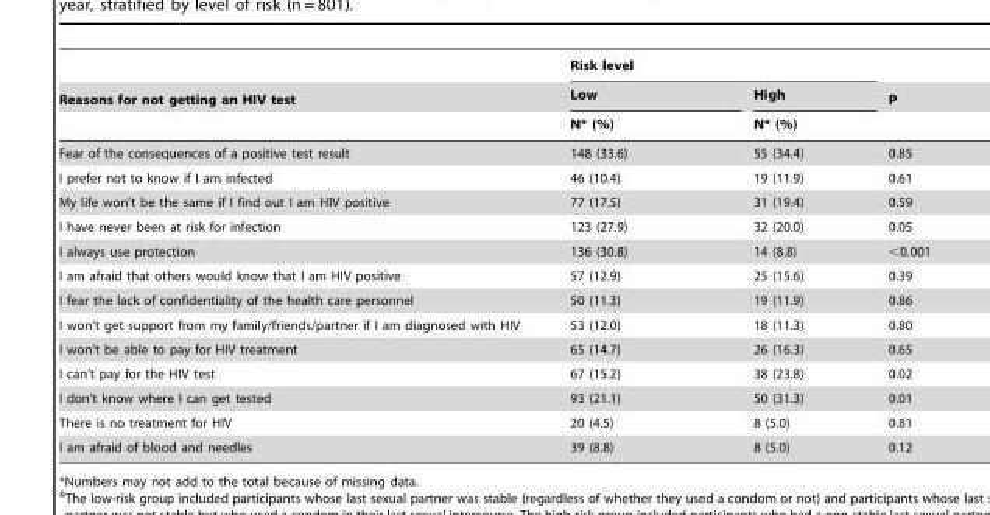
<table><thead><tr><td rowspan="3">Reasons for not getting an HIV test</td><td colspan="2">Risk level</td><td rowspan="3">P</td></tr><tr><td rowspan="2">Low N* (%)</td><td rowspan="2">High N* (%)</td></tr><tr></tr></thead><tbody><tr><td>Fear of the consequences of a positive test result</td><td>148 (33.6)</td><td>55 (34.4)</td><td>0.85</td></tr><tr><td>I prefer not to know if I am infected</td><td>46 (10.4)</td><td>19 (11.9)</td><td>0.61</td></tr><tr><td>My life won’t be the same if I find out I am HIV positive</td><td>77 (17.5)</td><td>31 (19.4)</td><td>0.59</td></tr><tr><td>I have never been at risk for infection</td><td>123 (27.9)</td><td>32 (20.0)</td><td>0.05</td></tr><tr><td>I always use protection</td><td>136 (30.8)</td><td>14 (8.8)</td><td>&lt;0.001</td></tr><tr><td>I am afraid that others would know that I am HIV positive</td><td>57 (12.9)</td><td>25 (15.6)</td><td>0.39</td></tr><tr><td>I fear the lack of confidentiality of the health care personnel</td><td>50 (11.3)</td><td>19 (11.9)</td><td>0.86</td></tr><tr><td>I won’t get support from my family/friends/partner if I am diagnosed with HIV</td><td>53 (12.0)</td><td>18 (11.3)</td><td>0.80</td></tr><tr><td>I won’t be able to pay for HIV treatment</td><td>65 (14.7)</td><td>26 (16.3)</td><td>0.65</td></tr><tr><td>I can’t pay for the HIV test</td><td>67 (15.2)</td><td>38 (23.8)</td><td>0.02</td></tr><tr><td>I don’t know where I can get tested</td><td>93 (21.1)</td><td>50 (31.3)</td><td>0.01</td></tr><tr><td>There is no treatment for HIV</td><td>20 (4.5)</td><td>8 (5.0)</td><td>0.81</td></tr><tr><td>I am afraid of blood and needles</td><td>39 (8.8)</td><td>8 (5.0)</td><td>0.12</td></tr></tbody></table>